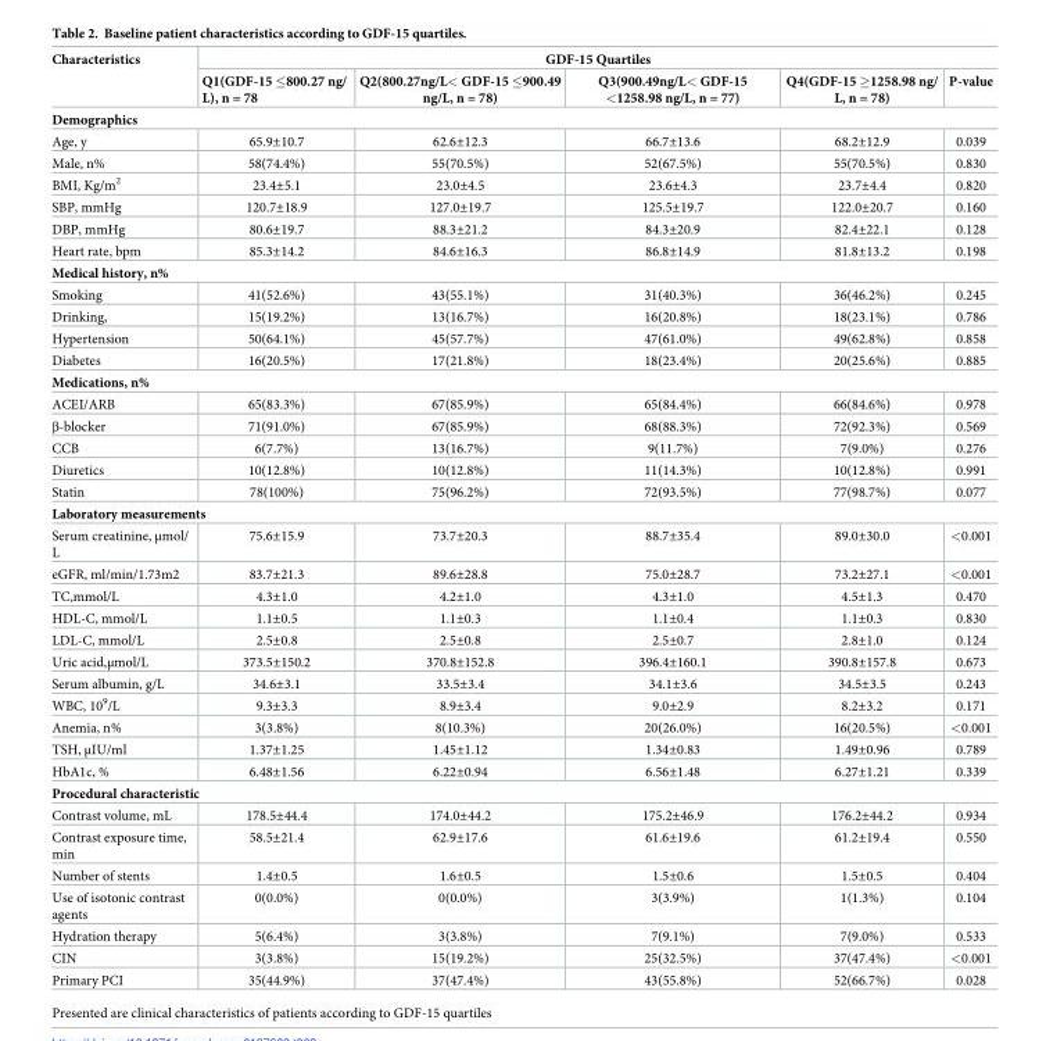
<table><thead><tr><td rowspan="2">Characteristics</td><td colspan="5">GDF-15 Quartiles</td></tr><tr><td>Q1(GDF-15 ≤800.27 ng/ L), n = 78</td><td>Q2(800.27ng/L&lt; GDF-15 ≤900.49 ng/L, n = 78)</td><td>Q3(900.49ng/L&lt; GDF-15 &lt;1258.98 ng/L, n = 77)</td><td>Q4(GDF-15 ≥1258.98 ng/ L, n = 78)</td><td>P-value</td></tr></thead><tbody><tr><td colspan="6">Demographics</td></tr><tr><td>Age, y</td><td>65.9±10.7</td><td>62.6±12.3</td><td>66.7±13.6</td><td>68.2±12.9</td><td>0.039</td></tr><tr><td>Male, n%</td><td>58(74.4%)</td><td>55(70.5%)</td><td>52(67.5%)</td><td>55(70.5%)</td><td>0.830</td></tr><tr><td>BMI, Kg/m<sup>2</sup></td><td>23.4±5.1</td><td>23.0±4.5</td><td>23.6±4.3</td><td>23.7±4.4</td><td>0.820</td></tr><tr><td>SBP, mmHg</td><td>120.7±18.9</td><td>127.0±19.7</td><td>125.5±19.7</td><td>122.0±20.7</td><td>0.160</td></tr><tr><td>DBP, mmHg</td><td>80.6±19.7</td><td>88.3±21.2</td><td>84.3±20.9</td><td>82.4±22.1</td><td>0.128</td></tr><tr><td>Heart rate, bpm</td><td>85.3±14.2</td><td>84.6±16.3</td><td>86.8±14.9</td><td>81.8±13.2</td><td>0.198</td></tr><tr><td colspan="6">Medical history, n%</td></tr><tr><td>Smoking</td><td>41(52.6%)</td><td>43(55.1%)</td><td>31(40.3%)</td><td>36(46.2%)</td><td>0.245</td></tr><tr><td>Drinking,</td><td>15(19.2%)</td><td>13(16.7%)</td><td>16(20.8%)</td><td>18(23.1%)</td><td>0.786</td></tr><tr><td>Hypertension</td><td>50(64.1%)</td><td>45(57.7%)</td><td>47(61.0%)</td><td>49(62.8%)</td><td>0.858</td></tr><tr><td>Diabetes</td><td>16(20.5%)</td><td>17(21.8%)</td><td>18(23.4%)</td><td>20(25.6%)</td><td>0.885</td></tr><tr><td colspan="6">Medications, n%</td></tr><tr><td>ACEI/ARB</td><td>65(83.3%)</td><td>67(85.9%)</td><td>65(84.4%)</td><td>66(84.6%)</td><td>0.978</td></tr><tr><td>β-blocker</td><td>71(91.0%)</td><td>67(85.9%)</td><td>68(88.3%)</td><td>72(92.3%)</td><td>0.569</td></tr><tr><td>CCB</td><td>6(7.7%)</td><td>13(16.7%)</td><td>9(11.7%)</td><td>7(9.0%)</td><td>0.276</td></tr><tr><td>Diuretics</td><td>10(12.8%)</td><td>10(12.8%)</td><td>11(14.3%)</td><td>10(12.8%)</td><td>0.991</td></tr><tr><td>Statin</td><td>78(100%)</td><td>75(96.2%)</td><td>72(93.5%)</td><td>77(98.7%)</td><td>0.077</td></tr><tr><td colspan="6">Laboratory measurements</td></tr><tr><td>Serum creatinine, μmol/ L</td><td>75.6±15.9</td><td>73.7±20.3</td><td>88.7±35.4</td><td>89.0±30.0</td><td>&lt;0.001</td></tr><tr><td>eGFR, ml/min/1.73m2</td><td>83.7±21.3</td><td>89.6±28.8</td><td>75.0±28.7</td><td>73.2±27.1</td><td>&lt;0.001</td></tr><tr><td>TC,mmol/L</td><td>4.3±1.0</td><td>4.2±1.0</td><td>4.3±1.0</td><td>4.5±1.3</td><td>0.470</td></tr><tr><td>HDL-C, mmol/L</td><td>1.1±0.5</td><td>1.1±0.3</td><td>1.1±0.4</td><td>1.1±0.3</td><td>0.830</td></tr><tr><td>LDL-C, mmol/L</td><td>2.5±0.8</td><td>2.5±0.8</td><td>2.5±0.7</td><td>2.8±1.0</td><td>0.124</td></tr><tr><td>Uric acid,μmol/L</td><td>373.5±150.2</td><td>370.8±152.8</td><td>396.4±160.1</td><td>390.8±157.8</td><td>0.673</td></tr><tr><td>Serum albumin, g/L</td><td>34.6±3.1</td><td>33.5±3.4</td><td>34.1±3.6</td><td>34.5±3.5</td><td>0.243</td></tr><tr><td>WBC, 10<sup>9</sup>/L</td><td>9.3±3.3</td><td>8.9±3.4</td><td>9.0±2.9</td><td>8.2±3.2</td><td>0.171</td></tr><tr><td>Anemia, n%</td><td>3(3.8%)</td><td>8(10.3%)</td><td>20(26.0%)</td><td>16(20.5%)</td><td>&lt;0.001</td></tr><tr><td>TSH, μIU/ml</td><td>1.37±1.25</td><td>1.45±1.12</td><td>1.34±0.83</td><td>1.49±0.96</td><td>0.789</td></tr><tr><td>HbA1c, %</td><td>6.48±1.56</td><td>6.22±0.94</td><td>6.56±1.48</td><td>6.27±1.21</td><td>0.339</td></tr><tr><td colspan="6">Procedural characteristic</td></tr><tr><td>Contrast volume, mL</td><td>178.5±44.4</td><td>174.0±44.2</td><td>175.2±46.9</td><td>176.2±44.2</td><td>0.934</td></tr><tr><td>Contrast exposure time, min</td><td>58.5±21.4</td><td>62.9±17.6</td><td>61.6±19.6</td><td>61.2±19.4</td><td>0.550</td></tr><tr><td>Number of stents</td><td>1.4±0.5</td><td>1.6±0.5</td><td>1.5±0.6</td><td>1.5±0.5</td><td>0.404</td></tr><tr><td>Use of isotonic contrast agents</td><td>0(0.0%)</td><td>0(0.0%)</td><td>3(3.9%)</td><td>1(1.3%)</td><td>0.104</td></tr><tr><td>Hydration therapy</td><td>5(6.4%)</td><td>3(3.8%)</td><td>7(9.1%)</td><td>7(9.0%)</td><td>0.533</td></tr><tr><td>CIN</td><td>3(3.8%)</td><td>15(19.2%)</td><td>25(32.5%)</td><td>37(47.4%)</td><td>&lt;0.001</td></tr><tr><td>Primary PCI</td><td>35(44.9%)</td><td>37(47.4%)</td><td>43(55.8%)</td><td>52(66.7%)</td><td>0.028</td></tr></tbody></table>